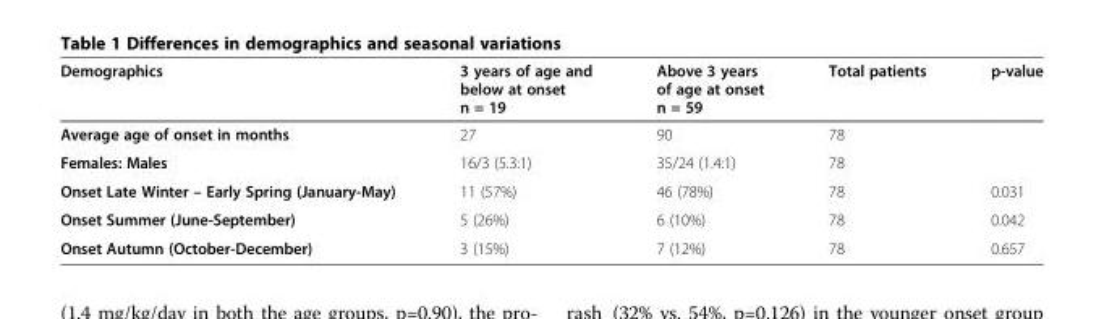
<table><thead><tr><td>Demographics</td><td>3 years of age and below at onset n = 19</td><td>Above 3 years of age at onset n = 59</td><td>Total patients</td><td>p-value</td></tr></thead><tbody><tr><td>Average age of onset in months</td><td>27</td><td>90</td><td>78</td><td></td></tr><tr><td>Females: Males</td><td>16/3 (5.3:1)</td><td>35/24 (1.4:1)</td><td>78</td><td></td></tr><tr><td>Onset Late Winter – Early Spring (January-May)</td><td>11 (57%)</td><td>46 (78%)</td><td>78</td><td>0.031</td></tr><tr><td>Onset Summer (June-September)</td><td>5 (26%)</td><td>6 (10%)</td><td>78</td><td>0.042</td></tr><tr><td>Onset Autumn (October-December)</td><td>3 (15%)</td><td>7 (12%)</td><td>78</td><td>0.657</td></tr></tbody></table>